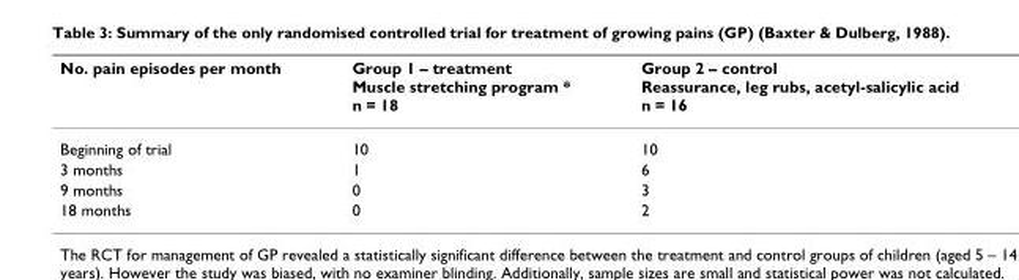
<table><thead><tr><td>No. pain episodes per month</td><td>Group 1 – treatment Muscle stretching program * n = 18</td><td>Group 2 – control Reassurance, leg rubs, acetyl-salicylic acid n = 16</td></tr></thead><tbody><tr><td>Beginning of trial</td><td>10</td><td>10</td></tr><tr><td>3 months</td><td>1</td><td>6</td></tr><tr><td>9 months</td><td>0</td><td>3</td></tr><tr><td>18 months</td><td>0</td><td>2</td></tr></tbody></table>